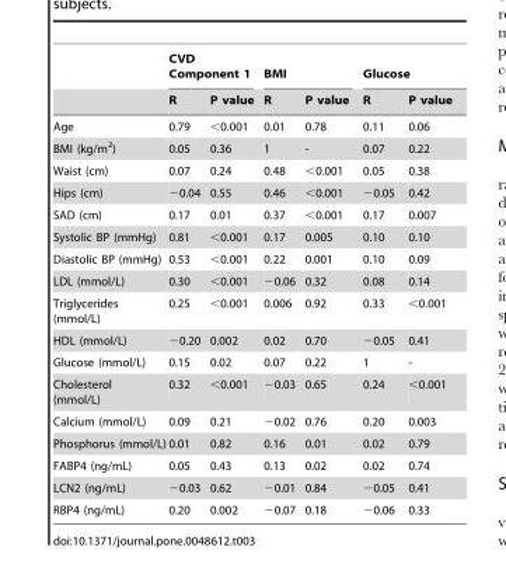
<table><thead><tr><td rowspan="2"></td><td colspan="2">CVD Component 1</td><td colspan="2">BMI</td><td colspan="2">Glucose</td></tr><tr><td>R</td><td>P value</td><td>R</td><td>P value</td><td>R</td><td>P value</td></tr></thead><tbody><tr><td>Age</td><td>0.79</td><td>&lt;0.001</td><td>0.01</td><td>0.78</td><td>0.11</td><td>0.06</td></tr><tr><td>BMI (kg/m<sup>2</sup>)</td><td>0.05</td><td>0.36</td><td>1</td><td>-</td><td>0.07</td><td>0.22</td></tr><tr><td>Waist (cm)</td><td>0.07</td><td>0.24</td><td>0.48</td><td>&lt;0.001</td><td>0.05</td><td>0.38</td></tr><tr><td>Hips (cm)</td><td>−0.04</td><td>0.55</td><td>0.46</td><td>&lt;0.001</td><td>−0.05</td><td>0.42</td></tr><tr><td>SAD (cm)</td><td>0.17</td><td>0.01</td><td>0.37</td><td>&lt;0.001</td><td>0.17</td><td>0.007</td></tr><tr><td>Systolic BP (mmHg)</td><td>0.81</td><td>&lt;0.001</td><td>0.17</td><td>0.005</td><td>0.10</td><td>0.10</td></tr><tr><td>Diastolic BP (mmHg)</td><td>0.53</td><td>&lt;0.001</td><td>0.22</td><td>0.001</td><td>0.10</td><td>0.09</td></tr><tr><td>LDL (mmol/L)</td><td>0.30</td><td>&lt;0.001</td><td>−0.06</td><td>0.32</td><td>0.08</td><td>0.14</td></tr><tr><td>Triglycerides (mmol/L)</td><td>0.25</td><td>&lt;0.001</td><td>0.006</td><td>0.92</td><td>0.33</td><td>&lt;0.001</td></tr><tr><td>HDL (mmol/L)</td><td>−0.20</td><td>0.002</td><td>0.02</td><td>0.70</td><td>−0.05</td><td>0.41</td></tr><tr><td>Glucose (mmol/L)</td><td>0.15</td><td>0.02</td><td>0.07</td><td>0.22</td><td>1</td><td>-</td></tr><tr><td>Cholesterol (mmol/L)</td><td>0.32</td><td>&lt;0.001</td><td>−0.03</td><td>0.65</td><td>0.24</td><td>&lt;0.001</td></tr><tr><td>Calcium (mmol/L)</td><td>0.09</td><td>0.21</td><td>−0.02</td><td>0.76</td><td>0.20</td><td>0.003</td></tr><tr><td>Phosphorus (mmol/L)</td><td>0.01</td><td>0.82</td><td>0.16</td><td>0.01</td><td>0.02</td><td>0.79</td></tr><tr><td>FABP4 (ng/mL)</td><td>0.05</td><td>0.43</td><td>0.13</td><td>0.02</td><td>0.02</td><td>0.74</td></tr><tr><td>LCN2 (ng/mL)</td><td>−0.03</td><td>0.62</td><td>−0.01</td><td>0.84</td><td>−0.05</td><td>0.41</td></tr><tr><td>RBP4 (ng/mL)</td><td>0.20</td><td>0.002</td><td>−0.07</td><td>0.18</td><td>−0.06</td><td>0.33</td></tr></tbody></table>